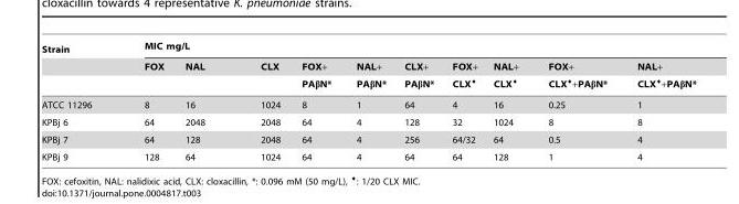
<table><thead><tr><td rowspan="3">Strain</td><td colspan="10">MIC mg/L</td></tr><tr><td rowspan="2">FOX</td><td rowspan="2">NAL</td><td rowspan="2">CLX</td><td rowspan="2">FOX+ PAβN*</td><td rowspan="2">NAL+ PAβN*</td><td rowspan="2">CLX+ PAβN*</td><td rowspan="2">FOX+ CLX¤</td><td rowspan="2">NAL+ CLX¤</td><td rowspan="2">FOX+ CLX¤+PAbN*</td><td rowspan="2">NAL+ CLX¤+PAbN*</td></tr><tr></tr></thead><tbody><tr><td>ATCC 11296</td><td>8</td><td>16</td><td>1024</td><td>8</td><td>1</td><td>64</td><td>4</td><td>16</td><td>0.25</td><td>1</td></tr><tr><td>KPBj 6</td><td>64</td><td>2048</td><td>2048</td><td>64</td><td>4</td><td>128</td><td>32</td><td>1024</td><td>8</td><td>8</td></tr><tr><td>KPBj 7</td><td>64</td><td>128</td><td>2048</td><td>64</td><td>4</td><td>256</td><td>64/32</td><td>64</td><td>0.5</td><td>4</td></tr><tr><td>KPBj 9</td><td>128</td><td>64</td><td>1024</td><td>64</td><td>4</td><td>64</td><td>64</td><td>128</td><td>1</td><td>4</td></tr></tbody></table>